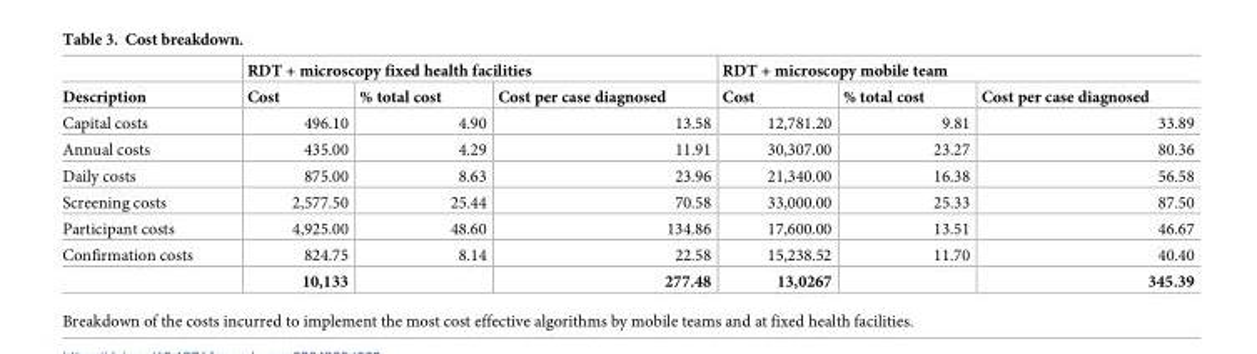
<table><thead><tr><td rowspan="2">Description</td><td colspan="3">RDT + microscopy fixed health facilities</td><td colspan="3">RDT + microscopy mobile team</td></tr><tr><td>Cost</td><td>% total cost</td><td>Cost per case diagnosed</td><td>Cost</td><td>% total cost</td><td>Cost per case diagnosed</td></tr></thead><tbody><tr><td>Capital costs</td><td>496.10</td><td>4.90</td><td>13.58</td><td>12,781.20</td><td>9.81</td><td>33.89</td></tr><tr><td>Annual costs</td><td>435.00</td><td>4.29</td><td>11.91</td><td>30,307.00</td><td>23.27</td><td>80.36</td></tr><tr><td>Daily costs</td><td>875.00</td><td>8.63</td><td>23.96</td><td>21,340.00</td><td>16.38</td><td>56.58</td></tr><tr><td>Screening costs</td><td>2,577.50</td><td>25.44</td><td>70.58</td><td>33,000.00</td><td>25.33</td><td>87.50</td></tr><tr><td>Participant costs</td><td>4,925.00</td><td>48.60</td><td>134.86</td><td>17,600.00</td><td>13.51</td><td>46.67</td></tr><tr><td rowspan="2">Confirmation costs</td><td>824.75</td><td>8.14</td><td>22.58</td><td>15,238.52</td><td>11.70</td><td>40.40</td></tr><tr><td>10,133</td><td></td><td>277.48</td><td>13,0267</td><td></td><td>345.39</td></tr></tbody></table>